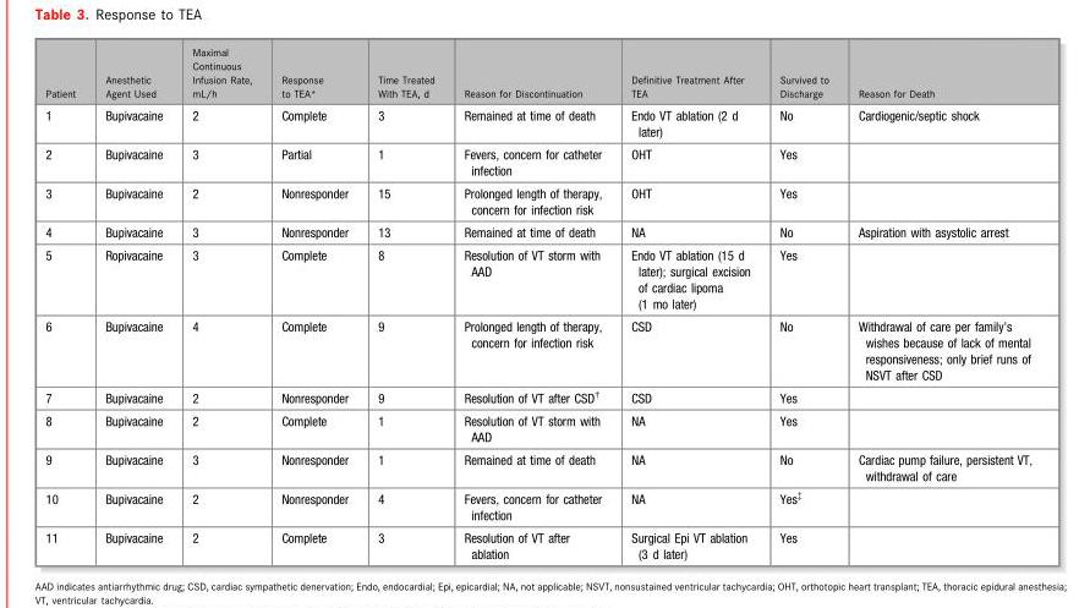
<table><thead><tr><td>Patient</td><td>Anesthetic Agent Used</td><td>Maximal Continuous Infusion Rate, mL/h</td><td>Response to TEA*</td><td>Time Treated With TEA, d</td><td>Reason for Discontinuation</td><td>Definitive Treatment After TEA</td><td>Survived to Discharge</td><td>Reason for Death</td></tr></thead><tbody><tr><td>1</td><td>Bupivacaine</td><td>2</td><td>Complete</td><td>3</td><td>Remained at time of death</td><td>Endo VT ablation (2 d later)</td><td>No</td><td>Cardiogenic/septic shock</td></tr><tr><td>2</td><td>Bupivacaine</td><td>3</td><td>Partial</td><td>1</td><td>Fevers, concern for catheter infection</td><td>OHT</td><td>Yes</td><td></td></tr><tr><td>3</td><td>Bupivacaine</td><td>2</td><td>Nonresponder</td><td>15</td><td>Prolonged length of therapy, concern for infection risk</td><td>OHT</td><td>Yes</td><td></td></tr><tr><td>4</td><td>Bupivacaine</td><td>3</td><td>Nonresponder</td><td>13</td><td>Remained at time of death</td><td>NA</td><td>No</td><td>Aspiration with asystolic arrest</td></tr><tr><td>5</td><td>Ropivacaine</td><td>3</td><td>Complete</td><td>8</td><td>Resolution of VT storm with AAD</td><td>Endo VT ablation (15 d later); surgical excision of cardiac lipoma (1 mo later)</td><td>Yes</td><td></td></tr><tr><td>6</td><td>Bupivacaine</td><td>4</td><td>Complete</td><td>9</td><td>Prolonged length of therapy, concern for infection risk</td><td>CSD</td><td>No</td><td>Withdrawal of care per family’s wishes because of lack of mental responsiveness; only brief runs of NSVT after CSD</td></tr><tr><td>7</td><td>Bupivacaine</td><td>2</td><td>Nonresponder</td><td>9</td><td>Resolution of VT after CSD†</td><td>CSD</td><td>Yes</td><td></td></tr><tr><td>8</td><td>Bupivacaine</td><td>2</td><td>Complete</td><td>1</td><td>Resolution of VT storm with AAD</td><td>NA</td><td>Yes</td><td></td></tr><tr><td>9</td><td>Bupivacaine</td><td>3</td><td>Nonresponder</td><td>1</td><td>Remained at time of death</td><td>NA</td><td>No</td><td>Cardiac pump failure, persistent VT, withdrawal of care</td></tr><tr><td>10</td><td>Bupivacaine</td><td>2</td><td>Nonresponder</td><td>4</td><td>Fevers, concern for catheter infection</td><td>NA</td><td>Yes‡</td><td></td></tr><tr><td>11</td><td>Bupivacaine</td><td>2</td><td>Complete</td><td>3</td><td>Resolution of VT after ablation</td><td>Surgical Epi VT ablation (3 d later)</td><td>Yes</td><td></td></tr></tbody></table>